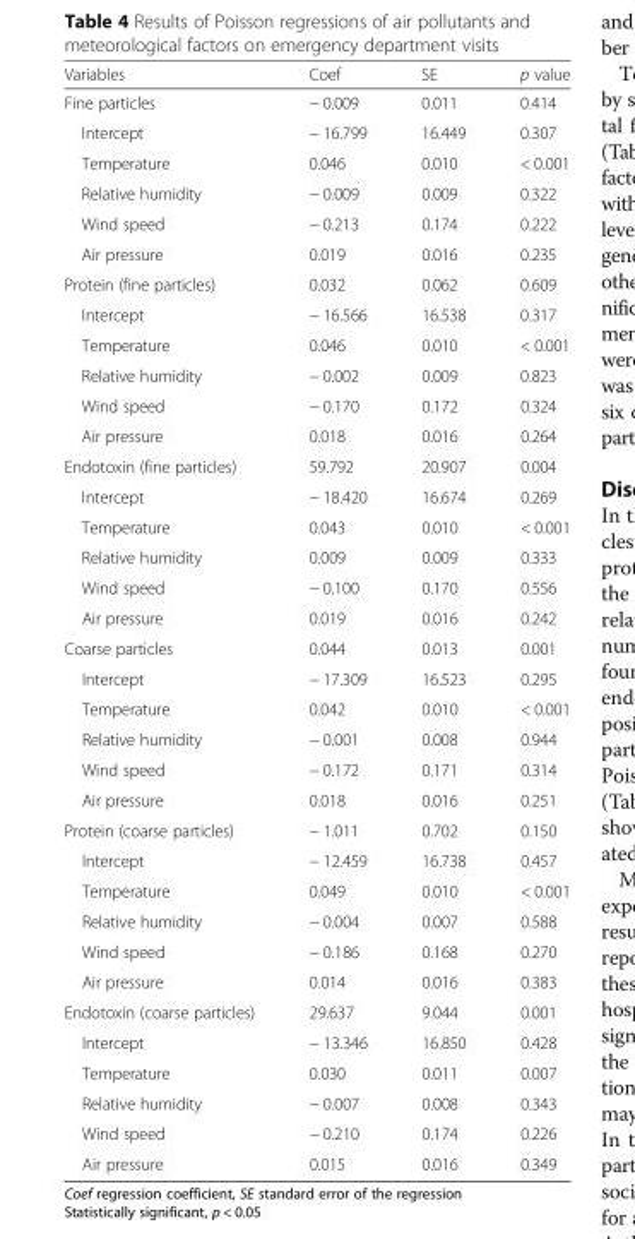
<table><thead><tr><td>Variables</td><td>Coef</td><td>SE</td><td>p value</td></tr></thead><tbody><tr><td>Fine particles</td><td>− 0.009</td><td>0.011</td><td>0.414</td></tr><tr><td>Intercept</td><td>− 16.799</td><td>16.449</td><td>0.307</td></tr><tr><td>Temperature</td><td>0.046</td><td>0.010</td><td>&lt; 0.001</td></tr><tr><td>Relative humidity</td><td>− 0.009</td><td>0.009</td><td>0.322</td></tr><tr><td>Wind speed</td><td>− 0.213</td><td>0.174</td><td>0.222</td></tr><tr><td>Air pressure</td><td>0.019</td><td>0.016</td><td>0.235</td></tr><tr><td>Protein (fine particles)</td><td>0.032</td><td>0.062</td><td>0.609</td></tr><tr><td>Intercept</td><td>− 16.566</td><td>16.538</td><td>0.317</td></tr><tr><td>Temperature</td><td>0.046</td><td>0.010</td><td>&lt; 0.001</td></tr><tr><td>Relative humidity</td><td>− 0.002</td><td>0.009</td><td>0.823</td></tr><tr><td>Wind speed</td><td>− 0.170</td><td>0.172</td><td>0.324</td></tr><tr><td>Air pressure</td><td>0.018</td><td>0.016</td><td>0.264</td></tr><tr><td>Endotoxin (fine particles)</td><td>59.792</td><td>20.907</td><td>0.004</td></tr><tr><td>Intercept</td><td>− 18.420</td><td>16.674</td><td>0.269</td></tr><tr><td>Temperature</td><td>0.043</td><td>0.010</td><td>&lt; 0.001</td></tr><tr><td>Relative humidity</td><td>0.009</td><td>0.009</td><td>0.333</td></tr><tr><td>Wind speed</td><td>− 0.100</td><td>0.170</td><td>0.556</td></tr><tr><td>Air pressure</td><td>0.019</td><td>0.016</td><td>0.242</td></tr><tr><td>Coarse particles</td><td>0.044</td><td>0.013</td><td>0.001</td></tr><tr><td>Intercept</td><td>− 17.309</td><td>16.523</td><td>0.295</td></tr><tr><td>Temperature</td><td>0.042</td><td>0.010</td><td>&lt; 0.001</td></tr><tr><td>Relative humidity</td><td>− 0.001</td><td>0.008</td><td>0.944</td></tr><tr><td>Wind speed</td><td>− 0.172</td><td>0.171</td><td>0.314</td></tr><tr><td>Air pressure</td><td>0.018</td><td>0.016</td><td>0.251</td></tr><tr><td>Protein (coarse particles)</td><td>− 1.011</td><td>0.702</td><td>0.150</td></tr><tr><td>Intercept</td><td>− 12.459</td><td>16.738</td><td>0.457</td></tr><tr><td>Temperature</td><td>0.049</td><td>0.010</td><td>&lt; 0.001</td></tr><tr><td>Relative humidity</td><td>− 0.004</td><td>0.007</td><td>0.588</td></tr><tr><td>Wind speed</td><td>− 0.186</td><td>0.168</td><td>0.270</td></tr><tr><td>Air pressure</td><td>0.014</td><td>0.016</td><td>0.383</td></tr><tr><td>Endotoxin (coarse particles)</td><td>29.637</td><td>9.044</td><td>0.001</td></tr><tr><td>Intercept</td><td>− 13.346</td><td>16.850</td><td>0.428</td></tr><tr><td>Temperature</td><td>0.030</td><td>0.011</td><td>0.007</td></tr><tr><td>Relative humidity</td><td>− 0.007</td><td>0.008</td><td>0.343</td></tr><tr><td>Wind speed</td><td>− 0.210</td><td>0.174</td><td>0.226</td></tr><tr><td>Air pressure</td><td>0.015</td><td>0.016</td><td>0.349</td></tr></tbody></table>